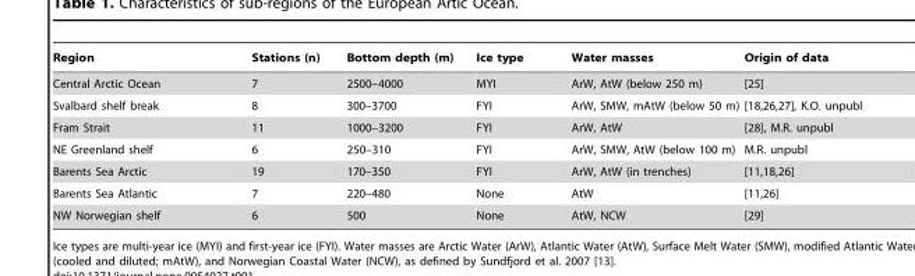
<table><thead><tr><td>Region</td><td>Stations (n)</td><td>Bottom depth (m)</td><td>Ice type</td><td>Water masses</td><td>Origin of data</td></tr></thead><tbody><tr><td>Central Arctic Ocean</td><td>7</td><td>2500–4000</td><td>MYI</td><td>ArW, AtW (below 250 m)</td><td>[25]</td></tr><tr><td>Svalbard shelf break</td><td>8</td><td>300–3700</td><td>FYI</td><td>ArW, SMW, mAtW (below 50 m)</td><td>[18,26,27], K.O. unpubl</td></tr><tr><td>Fram Strait</td><td>11</td><td>1000–3200</td><td>FYI</td><td>ArW, AtW</td><td>[28], M.R. unpubl</td></tr><tr><td>NE Greenland shelf</td><td>6</td><td>250–310</td><td>FYI</td><td>ArW, SMW, AtW (below 100 m)</td><td>M.R. unpubl</td></tr><tr><td>Barents Sea Arctic</td><td>19</td><td>170–350</td><td>FYI</td><td>ArW, AtW (in trenches)</td><td>[11,18,26]</td></tr><tr><td>Barents Sea Atlantic</td><td>7</td><td>220–480</td><td>None</td><td>AtW</td><td>[11,26]</td></tr><tr><td>NW Norwegian shelf</td><td>6</td><td>500</td><td>None</td><td>AtW, NCW</td><td>[29]</td></tr></tbody></table>